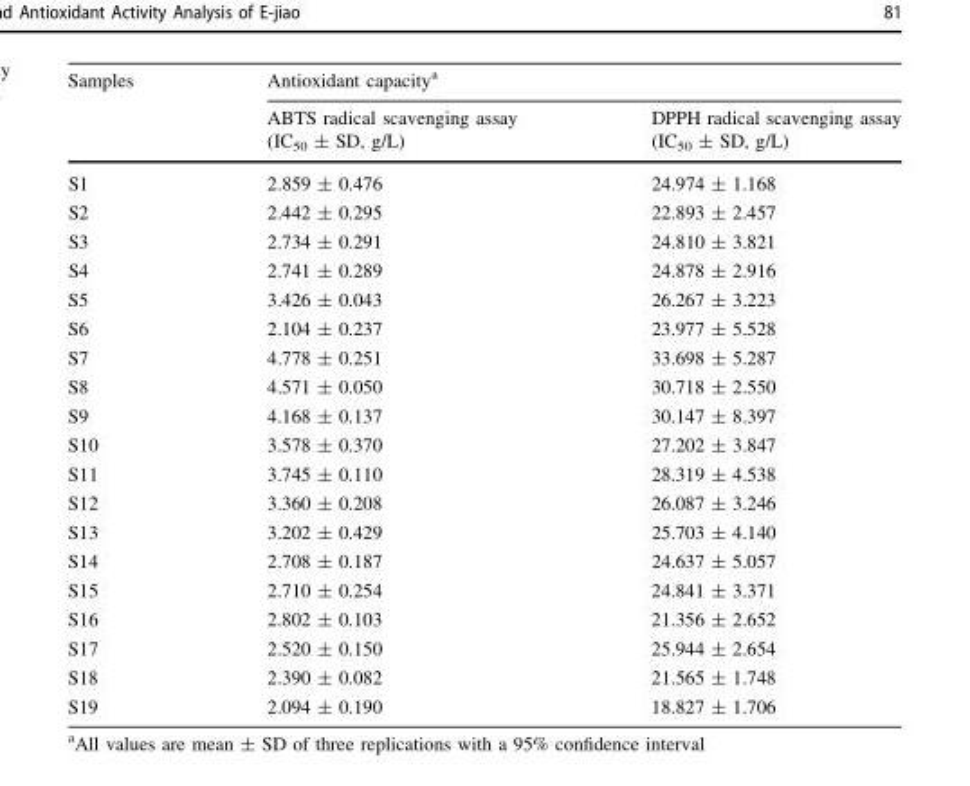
<table><thead><tr><td rowspan="3">Samples</td><td colspan="2">Antioxidant capacity<sup>a</sup></td></tr><tr><td rowspan="2">ABTS radical scavenging assay (IC<sub>50</sub> ± SD, g/L)</td><td rowspan="2">DPPH radical scavenging assay (IC<sub>50</sub> ± SD, g/L)</td></tr><tr></tr></thead><tbody><tr><td>S1</td><td>2.859 ± 0.476</td><td>24.974 ± 1.168</td></tr><tr><td>S2</td><td>2.442 ± 0.295</td><td>22.893 ± 2.457</td></tr><tr><td>S3</td><td>2.734 ± 0.291</td><td>24.810 ± 3.821</td></tr><tr><td>S4</td><td>2.741 ± 0.289</td><td>24.878 ± 2.916</td></tr><tr><td>S5</td><td>3.426 ± 0.043</td><td>26.267 ± 3.223</td></tr><tr><td>S6</td><td>2.104 ± 0.237</td><td>23.977 ± 5.528</td></tr><tr><td>S7</td><td>4.778 ± 0.251</td><td>33.698 ± 5.287</td></tr><tr><td>S8</td><td>4.571 ± 0.050</td><td>30.718 ± 2.550</td></tr><tr><td>S9</td><td>4.168 ± 0.137</td><td>30.147 ± 8.397</td></tr><tr><td>S10</td><td>3.578 ± 0.370</td><td>27.202 ± 3.847</td></tr><tr><td>S11</td><td>3.745 ± 0.110</td><td>28.319 ± 4.538</td></tr><tr><td>S12</td><td>3.360 ± 0.208</td><td>26.087 ± 3.246</td></tr><tr><td>S13</td><td>3.202 ± 0.429</td><td>25.703 ± 4.140</td></tr><tr><td>S14</td><td>2.708 ± 0.187</td><td>24.637 ± 5.057</td></tr><tr><td>S15</td><td>2.710 ± 0.254</td><td>24.841 ± 3.371</td></tr><tr><td>S16</td><td>2.802 ± 0.103</td><td>21.356 ± 2.652</td></tr><tr><td>S17</td><td>2.520 ± 0.150</td><td>25.944 ± 2.654</td></tr><tr><td>S18</td><td>2.390 ± 0.082</td><td>21.565 ± 1.748</td></tr><tr><td>S19</td><td>2.094 ± 0.190</td><td>18.827 ± 1.706</td></tr></tbody></table>